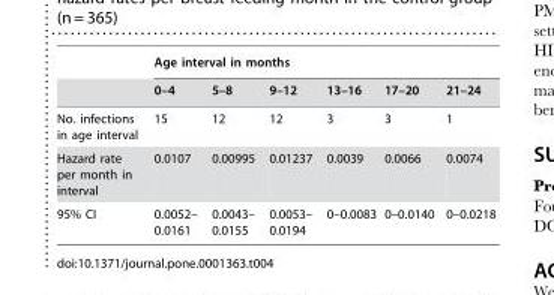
<table><thead><tr><td rowspan="2"></td><td colspan="6">Age interval in months</td></tr><tr><td>0–4</td><td>5–8</td><td>9–12</td><td>13–16</td><td>17–20</td><td>21–24</td></tr></thead><tbody><tr><td>No. infections in age interval</td><td>15</td><td>12</td><td>12</td><td>3</td><td>3</td><td>1</td></tr><tr><td>Hazard rate per month in interval</td><td>0.0107</td><td>0.00995</td><td>0.01237</td><td>0.0039</td><td>0.0066</td><td>0.0074</td></tr><tr><td>95% CI</td><td>0.0052– 0.0161</td><td>0.0043– 0.0155</td><td>0.0053– 0.0194</td><td>0–0.0083</td><td>0–0.0140</td><td>0–0.0218</td></tr></tbody></table>